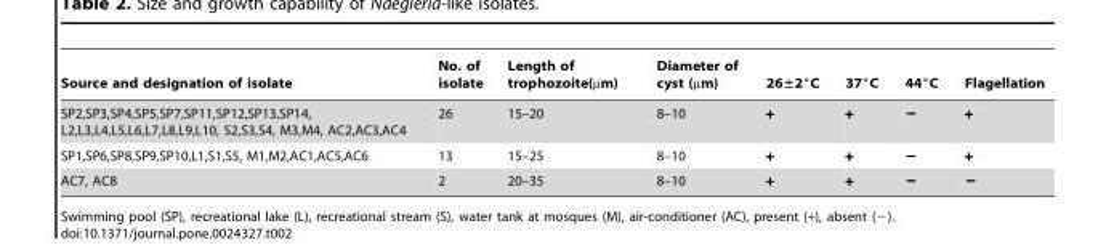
<table><thead><tr><td>Source and designation of isolate</td><td>No. of isolate</td><td>Length of trophozoite(µm)</td><td>Diameter of cyst (µm)</td><td>26±2°C</td><td>37°C</td><td>44°C</td><td>Flagellation</td></tr></thead><tbody><tr><td>SP2,SP3,SP4,SP5,SP7,SP11,SP12,SP13,SP14, L2,L3,L4,L5,L6,L7,L8,L9,L10, S2,S3,S4, M3,M4, AC2,AC3,AC4</td><td>26</td><td>15–20</td><td>8–10</td><td>+</td><td>+</td><td>−</td><td>+</td></tr><tr><td>SP1,SP6,SP8,SP9,SP10,L1,S1,S5, M1,M2,AC1,AC5,AC6</td><td>13</td><td>15–25</td><td>8–10</td><td>+</td><td>+</td><td>−</td><td>+</td></tr><tr><td>AC7, AC8</td><td>2</td><td>20–35</td><td>8–10</td><td>+</td><td>+</td><td>−</td><td>−</td></tr></tbody></table>